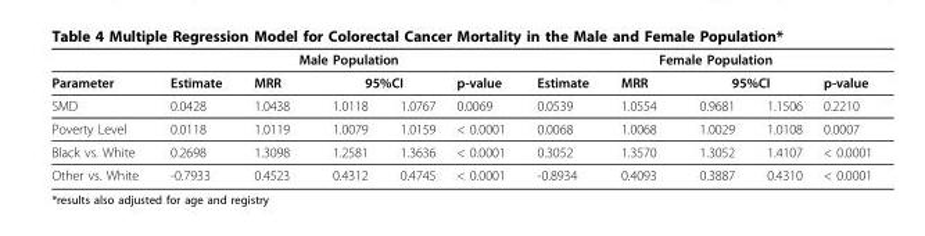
<table><thead><tr><td rowspan="3">Parameter SMD</td><td colspan="5">Male Population</td><td colspan="5">Female Population</td></tr><tr><td rowspan="2">Estimate 0.0428</td><td rowspan="2">MRR 1.0438</td><td colspan="2">95%CI</td><td rowspan="2">p-value 0.0069</td><td rowspan="2">Estimate 0.0539</td><td rowspan="2">MRR 1.0554</td><td colspan="2">95%CI</td><td rowspan="2">p-value 0.2210</td></tr><tr><td>1.0118</td><td>1.0767</td><td>0.9681</td><td>1.1506</td></tr></thead><tbody><tr><td>Poverty Level</td><td>0.0118</td><td>1.0119</td><td>1.0079</td><td>1.0159</td><td>&lt; 0.0001</td><td>0.0068</td><td>1.0068</td><td>1.0029</td><td>1.0108</td><td>0.0007</td></tr><tr><td>Black vs. White</td><td>0.2698</td><td>1.3098</td><td>1.2581</td><td>1.3636</td><td>&lt; 0.0001</td><td>0.3052</td><td>1.3570</td><td>1.3052</td><td>1.4107</td><td>&lt; 0.0001</td></tr><tr><td>Other vs. White</td><td>-0.7933</td><td>0.4523</td><td>0.4312</td><td>0.4745</td><td>&lt; 0.0001</td><td>-0.8934</td><td>0.4093</td><td>0.3887</td><td>0.4310</td><td>&lt; 0.0001</td></tr></tbody></table>